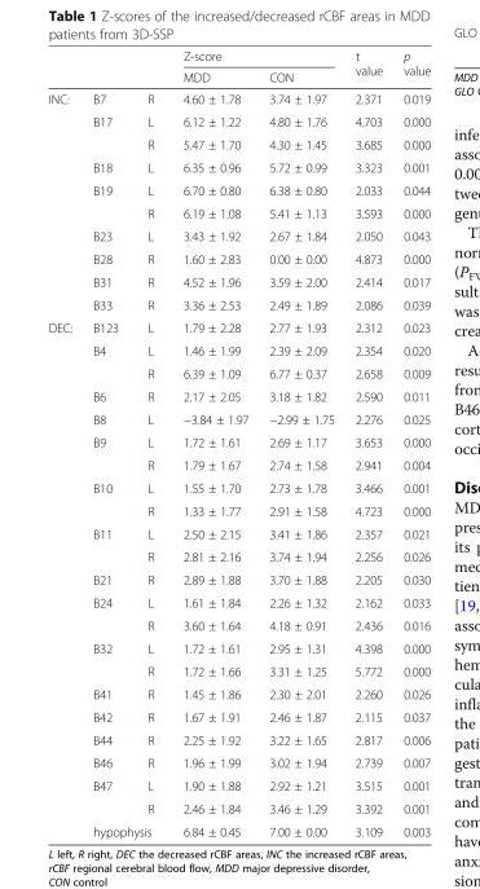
<table><thead><tr><td rowspan="2"></td><td rowspan="2"></td><td rowspan="2"></td><td colspan="2">Z-score</td><td rowspan="2">t value</td><td rowspan="2">p value</td></tr><tr><td>MDD</td><td>CON</td></tr></thead><tbody><tr><td rowspan="10">INC:</td><td>B7</td><td>R</td><td>4.60 ± 1.78</td><td>3.74 ± 1.97</td><td>2.371</td><td>0.019</td></tr><tr><td rowspan="2">B17</td><td>L</td><td>6.12 ± 1.22</td><td>4.80 ± 1.76</td><td>4.703</td><td>0.000</td></tr><tr><td>R</td><td>5.47 ± 1.70</td><td>4.30 ± 1.45</td><td>3.685</td><td>0.000</td></tr><tr><td>B18</td><td>L</td><td>6.35 ± 0.96</td><td>5.72 ± 0.99</td><td>3.323</td><td>0.001</td></tr><tr><td rowspan="2">B19</td><td>L</td><td>6.70 ± 0.80</td><td>6.38 ± 0.80</td><td>2.033</td><td>0.044</td></tr><tr><td>R</td><td>6.19 ± 1.08</td><td>5.41 ± 1.13</td><td>3.593</td><td>0.000</td></tr><tr><td>B23</td><td>L</td><td>3.43 ± 1.92</td><td>2.67 ± 1.84</td><td>2.050</td><td>0.043</td></tr><tr><td>B28</td><td>R</td><td>1.60 ± 2.83</td><td>0.00 ± 0.00</td><td>4.873</td><td>0.000</td></tr><tr><td>B31</td><td>R</td><td>4.52 ± 1.96</td><td>3.59 ± 2.00</td><td>2.414</td><td>0.017</td></tr><tr><td>B33</td><td>R</td><td>3.36 ± 2.53</td><td>2.49 ± 1.89</td><td>2.086</td><td>0.039</td></tr><tr><td rowspan="23">DEC:</td><td>B123</td><td>L</td><td>1.79 ± 2.28</td><td>2.77 ± 1.93</td><td>2.312</td><td>0.023</td></tr><tr><td rowspan="2">B4</td><td>L</td><td>1.46 ± 1.99</td><td>2.39 ± 2.09</td><td>2.354</td><td>0.020</td></tr><tr><td>R</td><td>6.39 ± 1.09</td><td>6.77 ± 0.37</td><td>2.658</td><td>0.009</td></tr><tr><td>B6</td><td>R</td><td>2.17 ± 2.05</td><td>3.18 ± 1.82</td><td>2.590</td><td>0.011</td></tr><tr><td>B8</td><td>L</td><td>−3.84 ± 1.97</td><td>−2.99 ± 1.75</td><td>2.276</td><td>0.025</td></tr><tr><td rowspan="2">B9</td><td>L</td><td>1.72 ± 1.61</td><td>2.69 ± 1.17</td><td>3.653</td><td>0.000</td></tr><tr><td>R</td><td>1.79 ± 1.67</td><td>2.74 ± 1.58</td><td>2.941</td><td>0.004</td></tr><tr><td>B10</td><td>L</td><td>1.55 ± 1.70</td><td>2.73 ± 1.78</td><td>3.466</td><td>0.001</td></tr><tr><td></td><td>R</td><td>1.33 ± 1.77</td><td>2.91 ± 1.58</td><td>4.723</td><td>0.000</td></tr><tr><td rowspan="2">B11</td><td>L</td><td>2.50 ± 2.15</td><td>3.41 ± 1.86</td><td>2.357</td><td>0.021</td></tr><tr><td>R</td><td>2.81 ± 2.16</td><td>3.74 ± 1.94</td><td>2.256</td><td>0.026</td></tr><tr><td>B21</td><td>R</td><td>2.89 ± 1.88</td><td>3.70 ± 1.88</td><td>2.205</td><td>0.030</td></tr><tr><td rowspan="2">B24</td><td>L</td><td>1.61 ± 1.84</td><td>2.26 ± 1.32</td><td>2.162</td><td>0.033</td></tr><tr><td>R</td><td>3.60 ± 1.64</td><td>4.18 ± 0.91</td><td>2.436</td><td>0.016</td></tr><tr><td rowspan="2">B32</td><td>L</td><td>1.72 ± 1.61</td><td>2.95 ± 1.31</td><td>4.398</td><td>0.000</td></tr><tr><td>R</td><td>1.72 ± 1.66</td><td>3.31 ± 1.25</td><td>5.772</td><td>0.000</td></tr><tr><td>B41</td><td>R</td><td>1.45 ± 1.86</td><td>2.30 ± 2.01</td><td>2.260</td><td>0.026</td></tr><tr><td>B42</td><td>R</td><td>1.67 ± 1.91</td><td>2.46 ± 1.87</td><td>2.115</td><td>0.037</td></tr><tr><td>B44</td><td>R</td><td>2.25 ± 1.92</td><td>3.22 ± 1.65</td><td>2.817</td><td>0.006</td></tr><tr><td>B46</td><td>R</td><td>1.96 ± 1.99</td><td>3.02 ± 1.94</td><td>2.739</td><td>0.007</td></tr><tr><td rowspan="2">B47</td><td>L</td><td>1.90 ± 1.88</td><td>2.92 ± 1.21</td><td>3.515</td><td>0.001</td></tr><tr><td>R</td><td>2.46 ± 1.84</td><td>3.46 ± 1.29</td><td>3.392</td><td>0.001</td></tr><tr><td colspan="2">hypophysis</td><td>6.84 ± 0.45</td><td>7.00 ± 0.00</td><td>3.109</td><td>0.003</td></tr></tbody></table>